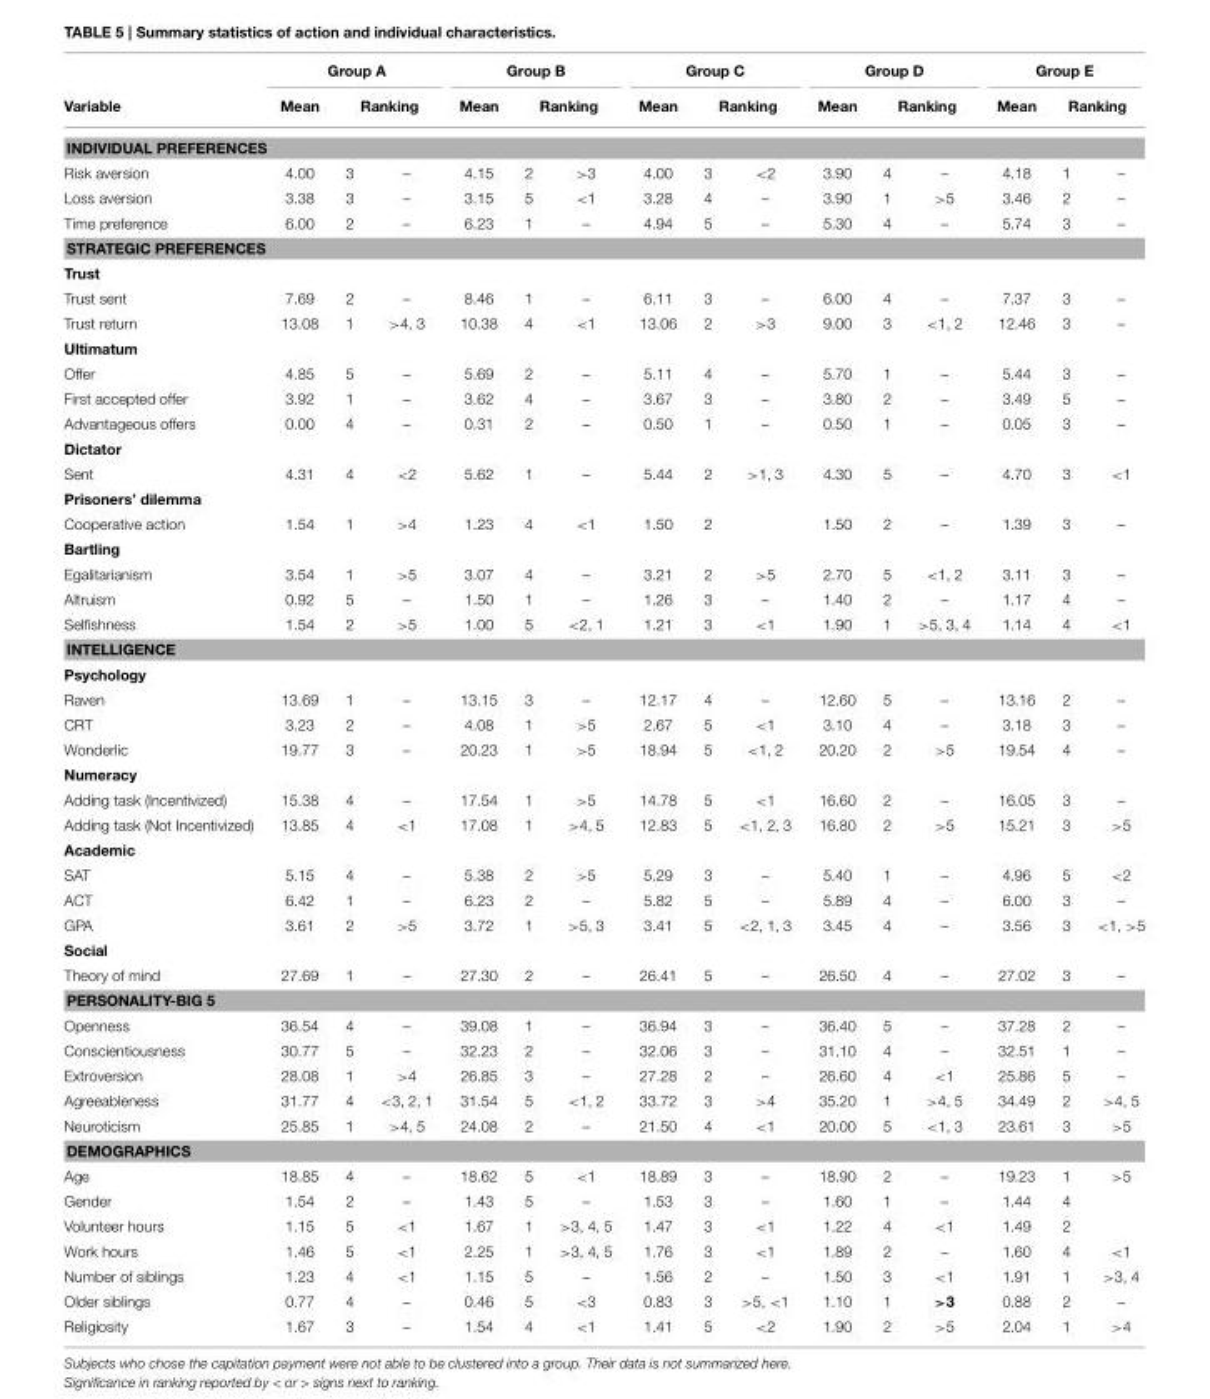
<table><thead><tr><td rowspan="2">Variable</td><td colspan="3">Group A</td><td colspan="3">Group B</td><td colspan="3">Group C</td><td colspan="3">Group D</td><td colspan="3">Group E</td></tr><tr><td>Mean</td><td colspan="2">Ranking</td><td>Mean</td><td colspan="2">Ranking</td><td>Mean</td><td colspan="2">Ranking</td><td>Mean</td><td colspan="2">Ranking</td><td>Mean</td><td colspan="2">Ranking</td></tr><tr><td colspan="16">INDIVIDUAL PREFERENCES</td></tr><tr><td>Risk aversion</td><td>4.00</td><td>3</td><td>–</td><td>4.15</td><td>2</td><td>&gt;3</td><td>4.00</td><td>3</td><td>&lt;2</td><td>3.90</td><td>4</td><td>–</td><td>4.18</td><td>1</td><td>–</td></tr></thead><tbody><tr><td>Loss aversion</td><td>3.38</td><td>3</td><td>–</td><td>3.15</td><td>5</td><td>&lt;1</td><td>3.28</td><td>4</td><td>–</td><td>3.90</td><td>1</td><td>&gt;5</td><td>3.46</td><td>2</td><td>–</td></tr><tr><td>Time preference</td><td>6.00</td><td>2</td><td>–</td><td>6.23</td><td>1</td><td>–</td><td>4.94</td><td>5</td><td>–</td><td>5.30</td><td>4</td><td>–</td><td>5.74</td><td>3</td><td>–</td></tr><tr><td colspan="16">STRATEGIC PREFERENCES</td></tr><tr><td colspan="16">Trust</td></tr><tr><td>Trust sent</td><td>7.69</td><td>2</td><td>–</td><td>8.46</td><td>1</td><td>–</td><td>6.11</td><td>3</td><td>–</td><td>6.00</td><td>4</td><td>–</td><td>7.37</td><td>3</td><td>–</td></tr><tr><td>Trust return</td><td>13.08</td><td>1</td><td>&gt;4, 3</td><td>10.38</td><td>4</td><td>&lt;1</td><td>13.06</td><td>2</td><td>&gt;3</td><td>9.00</td><td>3</td><td>&lt;1, 2</td><td>12.46</td><td>3</td><td>–</td></tr><tr><td colspan="16">Ultimatum</td></tr><tr><td>Offer</td><td>4.85</td><td>5</td><td>–</td><td>5.69</td><td>2</td><td>–</td><td>5.11</td><td>4</td><td>–</td><td>5.70</td><td>1</td><td>–</td><td>5.44</td><td>3</td><td>–</td></tr><tr><td>First accepted offer</td><td>3.92</td><td>1</td><td>–</td><td>3.62</td><td>4</td><td>–</td><td>3.67</td><td>3</td><td>–</td><td>3.80</td><td>2</td><td>–</td><td>3.49</td><td>5</td><td>–</td></tr><tr><td>Advantageous offers</td><td>0.00</td><td>4</td><td>–</td><td>0.31</td><td>2</td><td>–</td><td>0.50</td><td>1</td><td>–</td><td>0.50</td><td>1</td><td>–</td><td>0.05</td><td>3</td><td>–</td></tr><tr><td colspan="16">Dictator</td></tr><tr><td>Sent</td><td>4.31</td><td>4</td><td>&lt;2</td><td>5.62</td><td>1</td><td>–</td><td>5.44</td><td>2</td><td>&gt;1, 3</td><td>4.30</td><td>5</td><td>–</td><td>4.70</td><td>3</td><td>&lt;1</td></tr><tr><td colspan="16">Prisoners’ dilemma</td></tr><tr><td>Cooperative action</td><td>1.54</td><td>1</td><td>&gt;4</td><td>1.23</td><td>4</td><td>&lt;1</td><td>1.50</td><td>2</td><td></td><td>1.50</td><td>2</td><td>–</td><td>1.39</td><td>3</td><td>–</td></tr><tr><td colspan="16">Bartling</td></tr><tr><td>Egalitarianism</td><td>3.54</td><td>1</td><td>&gt;5</td><td>3.07</td><td>4</td><td>–</td><td>3.21</td><td>2</td><td>&gt;5</td><td>2.70</td><td>5</td><td>&lt;1, 2</td><td>3.11</td><td>3</td><td>–</td></tr><tr><td>Altruism</td><td>0.92</td><td>5</td><td>–</td><td>1.50</td><td>1</td><td>–</td><td>1.26</td><td>3</td><td>–</td><td>1.40</td><td>2</td><td>–</td><td>1.17</td><td>4</td><td>–</td></tr><tr><td>Selfishness</td><td>1.54</td><td>2</td><td>&gt;5</td><td>1.00</td><td>5</td><td>&lt;2, 1</td><td>1.21</td><td>3</td><td>&lt;1</td><td>1.90</td><td>1</td><td>&gt;5, 3, 4</td><td>1.14</td><td>4</td><td>&lt;1</td></tr><tr><td colspan="16">INTELLIGENCE</td></tr><tr><td colspan="16">Psychology</td></tr><tr><td>Raven</td><td>13.69</td><td>1</td><td>–</td><td>13.15</td><td>3</td><td>–</td><td>12.17</td><td>4</td><td>–</td><td>12.60</td><td>5</td><td>–</td><td>13.16</td><td>2</td><td>–</td></tr><tr><td>CRT</td><td>3.23</td><td>2</td><td>–</td><td>4.08</td><td>1</td><td>&gt;5</td><td>2.67</td><td>5</td><td>&lt;1</td><td>3.10</td><td>4</td><td>–</td><td>3.18</td><td>3</td><td>–</td></tr><tr><td>Wonderlic</td><td>19.77</td><td>3</td><td>–</td><td>20.23</td><td>1</td><td>&gt;5</td><td>18.94</td><td>5</td><td>&lt;1, 2</td><td>20.20</td><td>2</td><td>&gt;5</td><td>19.54</td><td>4</td><td>–</td></tr><tr><td colspan="16">Numeracy</td></tr><tr><td>Adding task (Incentivized)</td><td>15.38</td><td>4</td><td>–</td><td>17.54</td><td>1</td><td>&gt;5</td><td>14.78</td><td>5</td><td>&lt;1</td><td>16.60</td><td>2</td><td>–</td><td>16.05</td><td>3</td><td>–</td></tr><tr><td>Adding task (Not Incentivized)</td><td>13.85</td><td>4</td><td>&lt;1</td><td>17.08</td><td>1</td><td>&gt;4, 5</td><td>12.83</td><td>5</td><td>&lt;1, 2, 3</td><td>16.80</td><td>2</td><td>&gt;5</td><td>15.21</td><td>3</td><td>&gt;5</td></tr><tr><td colspan="16">Academic</td></tr><tr><td>SAT</td><td>5.15</td><td>4</td><td>–</td><td>5.38</td><td>2</td><td>&gt;5</td><td>5.29</td><td>3</td><td>–</td><td>5.40</td><td>1</td><td>–</td><td>4.96</td><td>5</td><td>&lt;2</td></tr><tr><td>ACT</td><td>6.42</td><td>1</td><td>–</td><td>6.23</td><td>2</td><td>–</td><td>5.82</td><td>5</td><td>–</td><td>5.89</td><td>4</td><td>–</td><td>6.00</td><td>3</td><td>–</td></tr><tr><td>GPA</td><td>3.61</td><td>2</td><td>&gt;5</td><td>3.72</td><td>1</td><td>&gt;5, 3</td><td>3.41</td><td>5</td><td>&lt;2, 1, 3</td><td>3.45</td><td>4</td><td>–</td><td>3.56</td><td>3</td><td>&lt;1, &gt;5</td></tr><tr><td colspan="16">Social</td></tr><tr><td>Theory of mind</td><td>27.69</td><td>1</td><td>–</td><td>27.30</td><td>2</td><td>–</td><td>26.41</td><td>5</td><td>–</td><td>26.50</td><td>4</td><td>–</td><td>27.02</td><td>3</td><td>–</td></tr><tr><td colspan="16">PERSONALITY-BIG 5</td></tr><tr><td>Openness</td><td>36.54</td><td>4</td><td>–</td><td>39.08</td><td>1</td><td>–</td><td>36.94</td><td>3</td><td>–</td><td>36.40</td><td>5</td><td>–</td><td>37.28</td><td>2</td><td>–</td></tr><tr><td>Conscientiousness</td><td>30.77</td><td>5</td><td>–</td><td>32.23</td><td>2</td><td>–</td><td>32.06</td><td>3</td><td>–</td><td>31.10</td><td>4</td><td>–</td><td>32.51</td><td>1</td><td>–</td></tr><tr><td>Extroversion</td><td>28.08</td><td>1</td><td>&gt;4</td><td>26.85</td><td>3</td><td>–</td><td>27.28</td><td>2</td><td>–</td><td>26.60</td><td>4</td><td>&lt;1</td><td>25.86</td><td>5</td><td>–</td></tr><tr><td>Agreeableness</td><td>31.77</td><td>4</td><td>&lt;3, 2, 1</td><td>31.54</td><td>5</td><td>&lt;1, 2</td><td>33.72</td><td>3</td><td>&gt;4</td><td>35.20</td><td>1</td><td>&gt;4, 5</td><td>34.49</td><td>2</td><td>&gt;4, 5</td></tr><tr><td>Neuroticism</td><td>25.85</td><td>1</td><td>&gt;4, 5</td><td>24.08</td><td>2</td><td>–</td><td>21.50</td><td>4</td><td>&lt;1</td><td>20.00</td><td>5</td><td>&lt;1, 3</td><td>23.61</td><td>3</td><td>&gt;5</td></tr><tr><td colspan="16">DEMOGRAPHICS</td></tr><tr><td>Age</td><td>18.85</td><td>4</td><td>–</td><td>18.62</td><td>5</td><td>&lt;1</td><td>18.89</td><td>3</td><td>–</td><td>18.90</td><td>2</td><td>–</td><td>19.23</td><td>1</td><td>&gt;5</td></tr><tr><td>Gender</td><td>1.54</td><td>2</td><td>–</td><td>1.43</td><td>5</td><td>–</td><td>1.53</td><td>3</td><td>–</td><td>1.60</td><td>1</td><td>–</td><td>1.44</td><td>4</td><td></td></tr><tr><td>Volunteer hours</td><td>1.15</td><td>5</td><td>&lt;1</td><td>1.67</td><td>1</td><td>&gt;3, 4, 5</td><td>1.47</td><td>3</td><td>&lt;1</td><td>1.22</td><td>4</td><td>&lt;1</td><td>1.49</td><td>2</td><td></td></tr><tr><td>Work hours</td><td>1.46</td><td>5</td><td>&lt;1</td><td>2.25</td><td>1</td><td>&gt;3, 4, 5</td><td>1.76</td><td>3</td><td>&lt;1</td><td>1.89</td><td>2</td><td>–</td><td>1.60</td><td>4</td><td>&lt;1</td></tr><tr><td>Number of siblings</td><td>1.23</td><td>4</td><td>&lt;1</td><td>1.15</td><td>5</td><td>–</td><td>1.56</td><td>2</td><td>–</td><td>1.50</td><td>3</td><td>&lt;1</td><td>1.91</td><td>1</td><td>&gt;3, 4</td></tr><tr><td>Older siblings</td><td>0.77</td><td>4</td><td>–</td><td>0.46</td><td>5</td><td>&lt;3</td><td>0.83</td><td>3</td><td>&gt;5, &lt;1</td><td>1.10</td><td>1</td><td>&gt;3</td><td>0.88</td><td>2</td><td>–</td></tr><tr><td>Religiosity</td><td>1.67</td><td>3</td><td>–</td><td>1.54</td><td>4</td><td>&lt;1</td><td>1.41</td><td>5</td><td>&lt;2</td><td>1.90</td><td>2</td><td>&gt;5</td><td>2.04</td><td>1</td><td>&gt;4</td></tr></tbody></table>